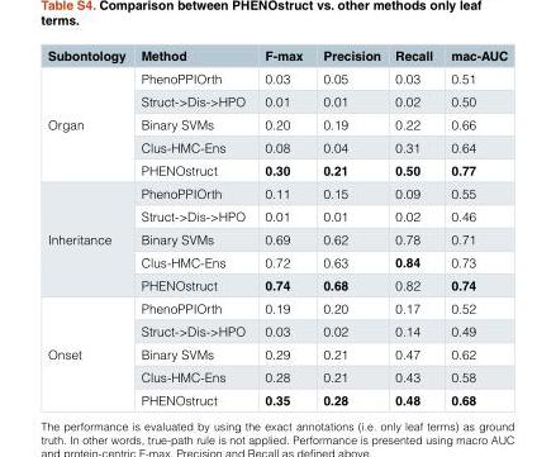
<table><thead><tr><td>Subontology</td><td>Method</td><td>F-max</td><td>Precision</td><td>Recall</td><td>mac-AUC</td></tr></thead><tbody><tr><td rowspan="5">Organ</td><td>PhenoPPIOrth</td><td>0.03</td><td>0.05</td><td>0.03</td><td>0.51</td></tr><tr><td>Struct-&gt;Dis-&gt;HPO</td><td>0.01</td><td>0.01</td><td>0.02</td><td>0.50</td></tr><tr><td>Binary SVMs</td><td>0.20</td><td>0.19</td><td>0.22</td><td>0.66</td></tr><tr><td>Clus-HMC-Ens</td><td>0.08</td><td>0.04</td><td>0.31</td><td>0.64</td></tr><tr><td>PHENOstruct</td><td>0.30</td><td>0.21</td><td>0.50</td><td>0.77</td></tr><tr><td rowspan="5">Inheritance</td><td>PhenoPPIOrth</td><td>0.11</td><td>0.15</td><td>0.09</td><td>0.55</td></tr><tr><td>Struct-&gt;Dis-&gt;HPO</td><td>0.01</td><td>0.01</td><td>0.02</td><td>0.46</td></tr><tr><td>Binary SVMs</td><td>0.69</td><td>0.62</td><td>0.78</td><td>0.71</td></tr><tr><td>Clus-HMC-Ens</td><td>0.72</td><td>0.63</td><td>0.84</td><td>0.73</td></tr><tr><td>PHENOstruct</td><td>0.74</td><td>0.68</td><td>0.82</td><td>0.74</td></tr><tr><td rowspan="5">Onset</td><td>PhenoPPIOrth</td><td>0.19</td><td>0.20</td><td>0.17</td><td>0.52</td></tr><tr><td>Struct-&gt;Dis-&gt;HPO</td><td>0.03</td><td>0.02</td><td>0.14</td><td>0.49</td></tr><tr><td>Binary SVMs</td><td>0.29</td><td>0.21</td><td>0.47</td><td>0.62</td></tr><tr><td>Clus-HMC-Ens</td><td>0.28</td><td>0.21</td><td>0.43</td><td>0.58</td></tr><tr><td>PHENOstruct</td><td>0.35</td><td>0.28</td><td>0.48</td><td>0.68</td></tr></tbody></table>